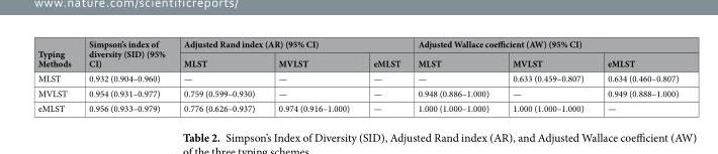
<table><thead><tr><td rowspan="2">Typing Methods</td><td rowspan="2">Simpson’s index of diversity (SID) (95% CI)</td><td colspan="3">Adjusted Rand index (AR) (95% CI)</td><td colspan="3">Adjusted Wallace coefficient (AW) (95% CI)</td></tr><tr><td>MLST</td><td>MVLST</td><td>eMLST</td><td>MLST</td><td>MVLST</td><td>eMLST</td></tr></thead><tbody><tr><td>MLST</td><td>0.932 (0.904–0.960)</td><td>—</td><td>—</td><td>—</td><td>—</td><td>0.633 (0.459–0.807)</td><td>0.634 (0.460–0.807)</td></tr><tr><td>MVLST</td><td>0.954 (0.931–0.977)</td><td>0.759 (0.599–0.930)</td><td>—</td><td>—</td><td>0.948 (0.886–1.000)</td><td>—</td><td>0.949 (0.888–1.000)</td></tr><tr><td>eMLST</td><td>0.956 (0.933–0.979)</td><td>0.776 (0.626–0.937)</td><td>0.974 (0.916–1.000)</td><td>—</td><td>1.000 (1.000–1.000)</td><td>1.000 (1.000–1.000)</td><td>—</td></tr></tbody></table>